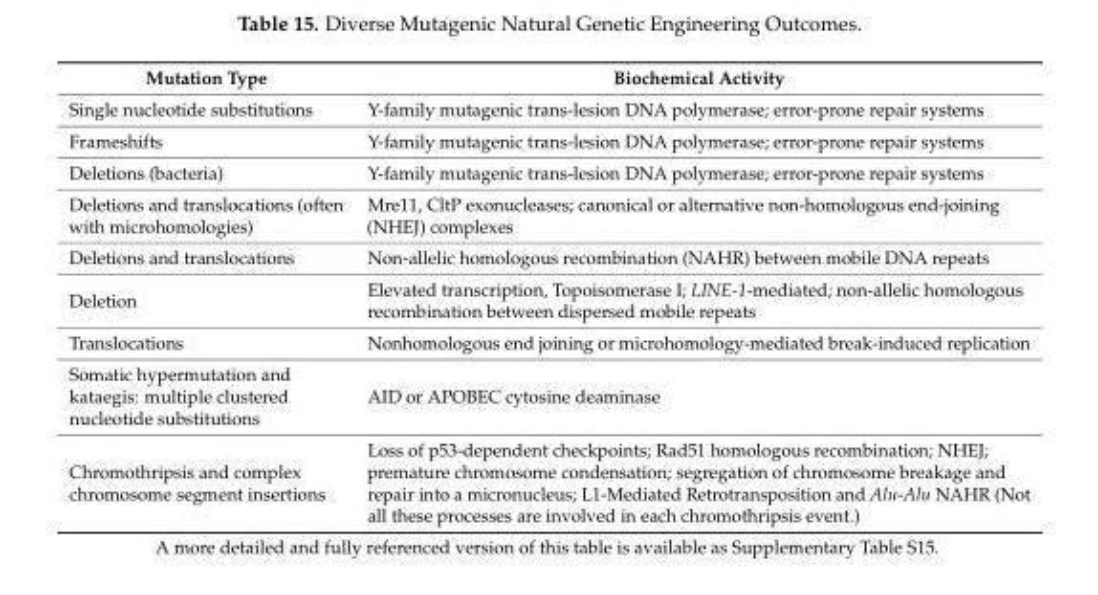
<table><thead><tr><td>Mutation Type</td><td>Biochemical Activity</td></tr></thead><tbody><tr><td>Single nucleotide substitutions</td><td>Y-family mutagenic trans-lesion DNA polymerase; error-prone repair systems</td></tr><tr><td>Frameshifts</td><td>Y-family mutagenic trans-lesion DNA polymerase; error-prone repair systems</td></tr><tr><td>Deletions (bacteria)</td><td>Y-family mutagenic trans-lesion DNA polymerase; error-prone repair systems</td></tr><tr><td>Deletions and translocations (often with microhomologies)</td><td>Mre11, CltP exonucleases; canonical or alternative non-homologous end-joining (NHEJ) complexes</td></tr><tr><td>Deletions and translocations</td><td>Non-allelic homologous recombination (NAHR) between mobile DNA repeats</td></tr><tr><td>Deletion</td><td>Elevated transcription, Topoisomerase I; LINE-1-mediated; non-allelic homologous recombination between dispersed mobile repeats</td></tr><tr><td>Translocations</td><td>Nonhomologous end joining or microhomology-mediated break-induced replication</td></tr><tr><td>Somatic hypermutation and kataegis: multiple clustered nucleotide substitutions</td><td>AID or APOBEC cytosine deaminase</td></tr><tr><td>Chromothripsis and complex chromosome segment insertions</td><td>Loss of p53-dependent checkpoints; Rad51 homologous recombination; NHEJ; premature chromosome condensation; segregation of chromosome breakage and repair into a micronucleus; L1-Mediated Retrotransposition and Alu-Alu NAHR (Not all these processes are involved in each chromothripsis event.)</td></tr></tbody></table>